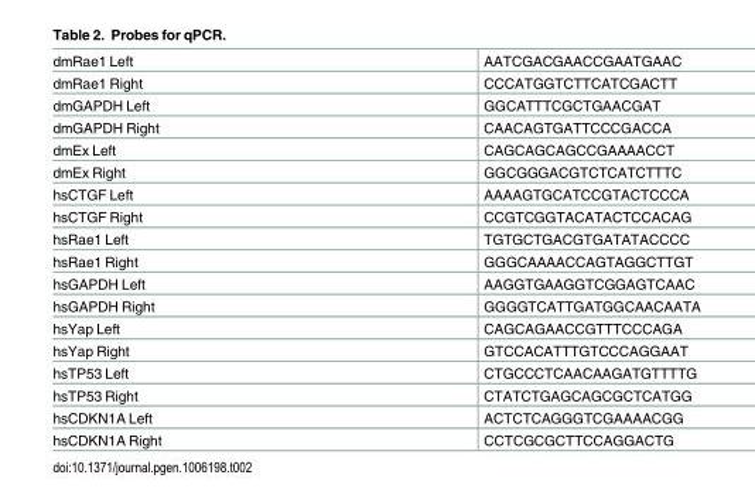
<table><tbody><tr><td>dmRae1 Left</td><td>AATCGACGAACCGAATGAAC</td></tr><tr><td>dmRae1 Right</td><td>CCCATGGTCTTCATCGACTT</td></tr><tr><td>dmGAPDH Left</td><td>GGCATTTCGCTGAACGAT</td></tr><tr><td>dmGAPDH Right</td><td>CAACAGTGATTCCCGACCA</td></tr><tr><td>dmEx Left</td><td>CAGCAGCAGCCGAAAACCT</td></tr><tr><td>dmEx Right</td><td>GGCGGGACGTCTCATCTTTC</td></tr><tr><td>hsCTGF Left</td><td>AAAAGTGCATCCGTACTCCCA</td></tr><tr><td>hsCTGF Right</td><td>CCGTCGGTACATACTCCACAG</td></tr><tr><td>hsRae1 Left</td><td>TGTGCTGACGTGATATACCCC</td></tr><tr><td>hsRae1 Right</td><td>GGGCAAAACCAGTAGGCTTGT</td></tr><tr><td>hsGAPDH Left</td><td>AAGGTGAAGGTCGGAGTCAAC</td></tr><tr><td>hsGAPDH Right</td><td>GGGGTCATTGATGGCAACAATA</td></tr><tr><td>hsYap Left</td><td>CAGCAGAACCGTTTCCCAGA</td></tr><tr><td>hsYap Right</td><td>GTCCACATTTGTCCCAGGAAT</td></tr><tr><td>hsTP53 Left</td><td>CTGCCCTCAACAAGATGTTTTG</td></tr><tr><td>hsTP53 Right</td><td>CTATCTGAGCAGCGCTCATGG</td></tr><tr><td>hsCDKN1A Left</td><td>ACTCTCAGGGTCGAAAACGG</td></tr><tr><td>hsCDKN1A Right</td><td>CCTCGCGCTTCCAGGACTG</td></tr></tbody></table>